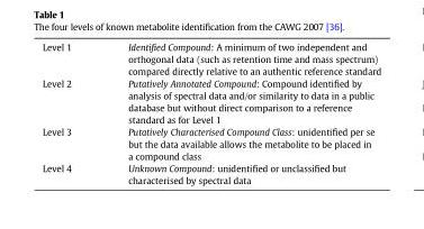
<table><tbody><tr><td>Level 1</td><td>Identified Compound: A minimum of two independent and orthogonal data (such as retention time and mass spectrum) compared directly relative to an authentic reference standard</td></tr><tr><td>Level 2</td><td>Putatively Annotated Compound: Compound identified by analysis of spectral data and/or similarity to data in a public database but without direct comparison to a reference standard as for Level 1</td></tr><tr><td>Level 3</td><td>Putatively Characterised Compound Class: unidentified per se but the data available allows the metabolite to be placed in a compound class</td></tr><tr><td>Level 4</td><td>Unknown Compound: unidentified or unclassified but characterised by spectral data</td></tr></tbody></table>